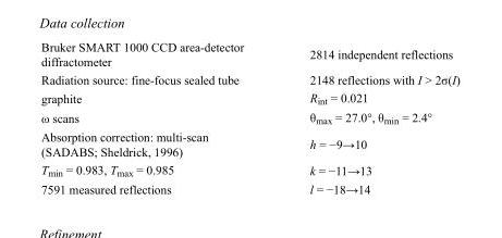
<table><tbody><tr><td>Bruker SMART 1000 CCD area-detector diffractometer</td><td>2814 independent reflections</td></tr><tr><td>Radiation source: fine-focus sealed tube</td><td>2148 reflections with I &gt; 2σ(I)</td></tr><tr><td>graphite</td><td>R<sub>int</sub> = 0.021</td></tr><tr><td>ω scans</td><td>θ<sub>max</sub> = 27.0°, θ<sub>min</sub> = 2.4°</td></tr><tr><td>Absorption correction: multi-scan (SADABS; Sheldrick, 1996)</td><td>h = −9→10</td></tr><tr><td>T<sub>min</sub> = 0.983, T<sub>max</sub> = 0.985</td><td>k = −11→13</td></tr><tr><td>7591 measured reflections</td><td>l = −18→14</td></tr></tbody></table>